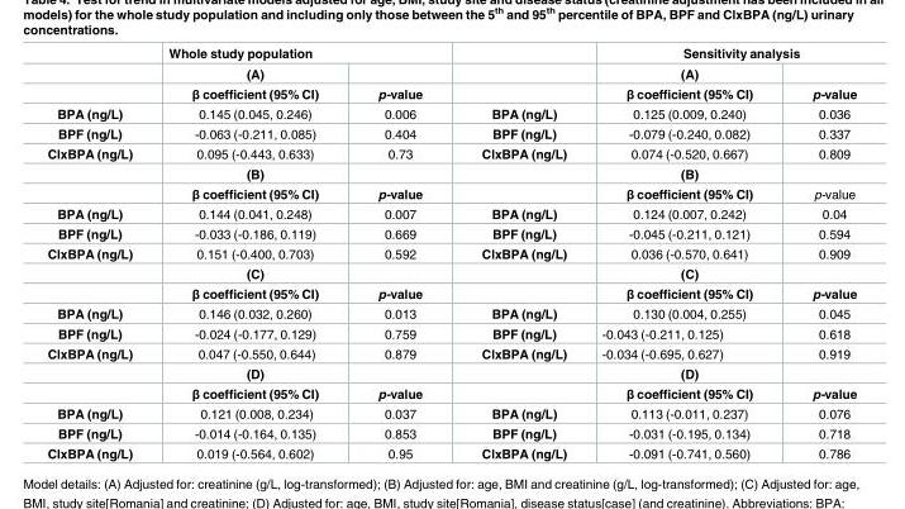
<table><thead><tr><td rowspan="2"></td><td colspan="2">Whole study population</td><td rowspan="2"></td><td colspan="2">Sensitivity analysis</td></tr><tr><td>(A)</td><td></td><td>(A)</td><td></td></tr></thead><tbody><tr><td></td><td>β coefficient (95% CI)</td><td>p-value</td><td></td><td>β coefficient (95% CI)</td><td>p-value</td></tr><tr><td>BPA (ng/L)</td><td>0.145 (0.045, 0.246)</td><td>0.006</td><td>BPA (ng/L)</td><td>0.125 (0.009, 0.240)</td><td>0.036</td></tr><tr><td>BPF (ng/L)</td><td>-0.063 (-0.211, 0.085)</td><td>0.404</td><td>BPF (ng/L)</td><td>-0.079 (-0.240, 0.082)</td><td>0.337</td></tr><tr><td rowspan="3">ClxBPA (ng/L)</td><td>0.095 (-0.443, 0.633)</td><td>0.73</td><td>ClxBPA (ng/L)</td><td>0.074 (-0.520, 0.667)</td><td>0.809</td></tr><tr><td>(B)</td><td></td><td></td><td>(B)</td><td></td></tr><tr><td>β coefficient (95% CI)</td><td>p-value</td><td></td><td>β coefficient (95% CI)</td><td>p-value</td></tr><tr><td>BPA (ng/L)</td><td>0.144 (0.041, 0.248)</td><td>0.007</td><td>BPA (ng/L)</td><td>0.124 (0.007, 0.242)</td><td>0.04</td></tr><tr><td>BPF (ng/L)</td><td>-0.033 (-0.186, 0.119)</td><td>0.669</td><td>BPF (ng/L)</td><td>-0.045 (-0.211, 0.121)</td><td>0.594</td></tr><tr><td rowspan="3">ClxBPA (ng/L)</td><td>0.151 (-0.400, 0.703)</td><td>0.592</td><td>ClxBPA (ng/L)</td><td>0.036 (-0.570, 0.641)</td><td>0.909</td></tr><tr><td>(C)</td><td></td><td></td><td>(C)</td><td></td></tr><tr><td>β coefficient (95% CI)</td><td>p-value</td><td></td><td>β coefficient (95% CI)</td><td>p-value</td></tr><tr><td>BPA (ng/L)</td><td>0.146 (0.032, 0.260)</td><td>0.013</td><td>BPA (ng/L)</td><td>0.130 (0.004, 0.255)</td><td>0.045</td></tr><tr><td>BPF (ng/L)</td><td>-0.024 (-0.177, 0.129)</td><td>0.759</td><td>BPF (ng/L)</td><td>-0.043 (-0.211, 0.125)</td><td>0.618</td></tr><tr><td rowspan="3">ClxBPA (ng/L)</td><td>0.047 (-0.550, 0.644)</td><td>0.879</td><td>ClxBPA (ng/L)</td><td>-0.034 (-0.695, 0.627)</td><td>0.919</td></tr><tr><td>(D)</td><td></td><td></td><td>(D)</td><td></td></tr><tr><td>β coefficient (95% CI)</td><td>p-value</td><td></td><td>β coefficient (95% CI)</td><td>p-value</td></tr><tr><td>BPA (ng/L)</td><td>0.121 (0.008, 0.234)</td><td>0.037</td><td>BPA (ng/L)</td><td>0.113 (-0.011, 0.237)</td><td>0.076</td></tr><tr><td>BPF (ng/L)</td><td>-0.014 (-0.164, 0.135)</td><td>0.853</td><td>BPF (ng/L)</td><td>-0.031 (-0.195, 0.134)</td><td>0.718</td></tr><tr><td>ClxBPA (ng/L)</td><td>0.019 (-0.564, 0.602)</td><td>0.95</td><td>ClxBPA (ng/L)</td><td>-0.091 (-0.741, 0.560)</td><td>0.786</td></tr></tbody></table>